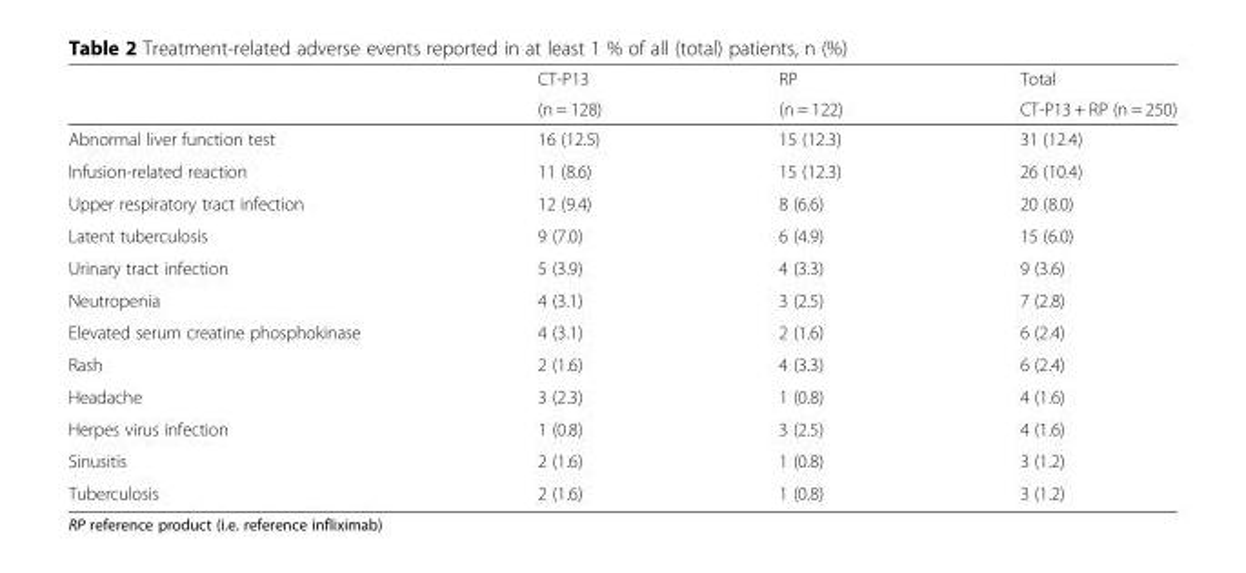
<table><thead><tr><td rowspan="2"></td><td rowspan="2">CT-P13 (n = 128)</td><td rowspan="2">RP (n = 122)</td><td rowspan="2">Total CT-P13 + RP (n = 250)</td></tr><tr></tr></thead><tbody><tr><td>Abnormal liver function test</td><td>16 (12.5)</td><td>15 (12.3)</td><td>31 (12.4)</td></tr><tr><td>Infusion-related reaction</td><td>11 (8.6)</td><td>15 (12.3)</td><td>26 (10.4)</td></tr><tr><td>Upper respiratory tract infection</td><td>12 (9.4)</td><td>8 (6.6)</td><td>20 (8.0)</td></tr><tr><td>Latent tuberculosis</td><td>9 (7.0)</td><td>6 (4.9)</td><td>15 (6.0)</td></tr><tr><td>Urinary tract infection</td><td>5 (3.9)</td><td>4 (3.3)</td><td>9 (3.6)</td></tr><tr><td>Neutropenia</td><td>4 (3.1)</td><td>3 (2.5)</td><td>7 (2.8)</td></tr><tr><td>Elevated serum creatine phosphokinase</td><td>4 (3.1)</td><td>2 (1.6)</td><td>6 (2.4)</td></tr><tr><td>Rash</td><td>2 (1.6)</td><td>4 (3.3)</td><td>6 (2.4)</td></tr><tr><td>Headache</td><td>3 (2.3)</td><td>1 (0.8)</td><td>4 (1.6)</td></tr><tr><td>Herpes virus infection</td><td>1 (0.8)</td><td>3 (2.5)</td><td>4 (1.6)</td></tr><tr><td>Sinusitis</td><td>2 (1.6)</td><td>1 (0.8)</td><td>3 (1.2)</td></tr><tr><td>Tuberculosis</td><td>2 (1.6)</td><td>1 (0.8)</td><td>3 (1.2)</td></tr></tbody></table>